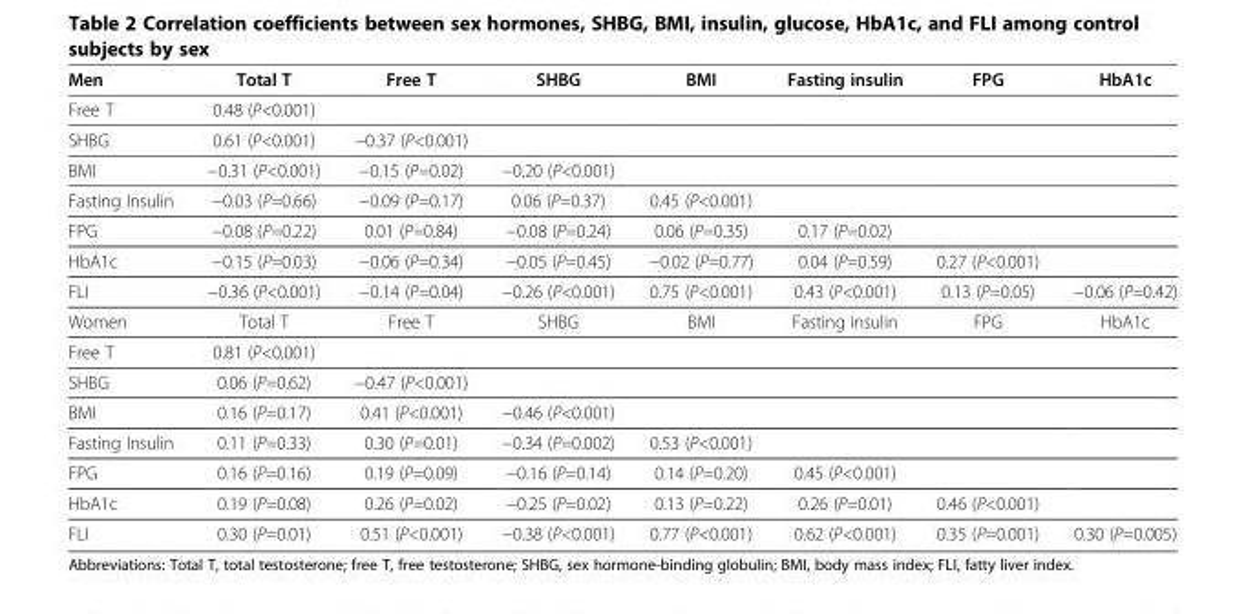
<table><thead><tr><td>Men</td><td>Total T</td><td>Free T</td><td>SHBG</td><td>BMI</td><td>Fasting insulin</td><td>FPG</td><td>HbA1c</td></tr></thead><tbody><tr><td>Free T</td><td>0.48 (P&lt;0.001)</td><td></td><td></td><td></td><td></td><td></td><td></td></tr><tr><td>SHBG</td><td>0.61 (P&lt;0.001)</td><td>−0.37 (P&lt;0.001)</td><td></td><td></td><td></td><td></td><td></td></tr><tr><td>BMI</td><td>−0.31 (P&lt;0.001)</td><td>−0.15 (P=0.02)</td><td>−0.20 (P&lt;0.001)</td><td></td><td></td><td></td><td></td></tr><tr><td>Fasting Insulin</td><td>−0.03 (P=0.66)</td><td>−0.09 (P=0.17)</td><td>0.06 (P=0.37)</td><td>0.45 (P&lt;0.001)</td><td></td><td></td><td></td></tr><tr><td>FPG</td><td>−0.08 (P=0.22)</td><td>0.01 (P=0.84)</td><td>−0.08 (P=0.24)</td><td>0.06 (P=0.35)</td><td>0.17 (P=0.02)</td><td></td><td></td></tr><tr><td>HbA1c</td><td>−0.15 (P=0.03)</td><td>−0.06 (P=0.34)</td><td>−0.05 (P=0.45)</td><td>−0.02 (P=0.77)</td><td>0.04 (P=0.59)</td><td>0.27 (P&lt;0.001)</td><td></td></tr><tr><td>FLI</td><td>−0.36 (P&lt;0.001)</td><td>−0.14 (P=0.04)</td><td>−0.26 (P&lt;0.001)</td><td>0.75 (P&lt;0.001)</td><td>0.43 (P&lt;0.001)</td><td>0.13 (P=0.05)</td><td>−0.06 (P=0.42)</td></tr><tr><td>Women</td><td>Total T</td><td>Free T</td><td>SHBG</td><td>BMI</td><td>Fasting insulin</td><td>FPG</td><td>HbA1c</td></tr><tr><td>Free T</td><td>0.81 (P&lt;0.001)</td><td></td><td></td><td></td><td></td><td></td><td></td></tr><tr><td>SHBG</td><td>0.06 (P=0.62)</td><td>−0.47 (P&lt;0.001)</td><td></td><td></td><td></td><td></td><td></td></tr><tr><td>BMI</td><td>0.16 (P=0.17)</td><td>0.41 (P&lt;0.001)</td><td>−0.46 (P&lt;0.001)</td><td></td><td></td><td></td><td></td></tr><tr><td>Fasting Insulin</td><td>0.11 (P=0.33)</td><td>0.30 (P=0.01)</td><td>−0.34 (P=0.002)</td><td>0.53 (P&lt;0.001)</td><td></td><td></td><td></td></tr><tr><td>FPG</td><td>0.16 (P=0.16)</td><td>0.19 (P=0.09)</td><td>−0.16 (P=0.14)</td><td>0.14 (P=0.20)</td><td>0.45 (P&lt;0.001)</td><td></td><td></td></tr><tr><td>HbA1c</td><td>0.19 (P=0.08)</td><td>0.26 (P=0.02)</td><td>−0.25 (P=0.02)</td><td>0.13 (P=0.22)</td><td>0.26 (P=0.01)</td><td>0.46 (P&lt;0.001)</td><td></td></tr><tr><td>FLI</td><td>0.30 (P=0.01)</td><td>0.51 (P&lt;0.001)</td><td>−0.38 (P&lt;0.001)</td><td>0.77 (P&lt;0.001)</td><td>0.62 (P&lt;0.001)</td><td>0.35 (P=0.001)</td><td>0.30 (P=0.005)</td></tr></tbody></table>